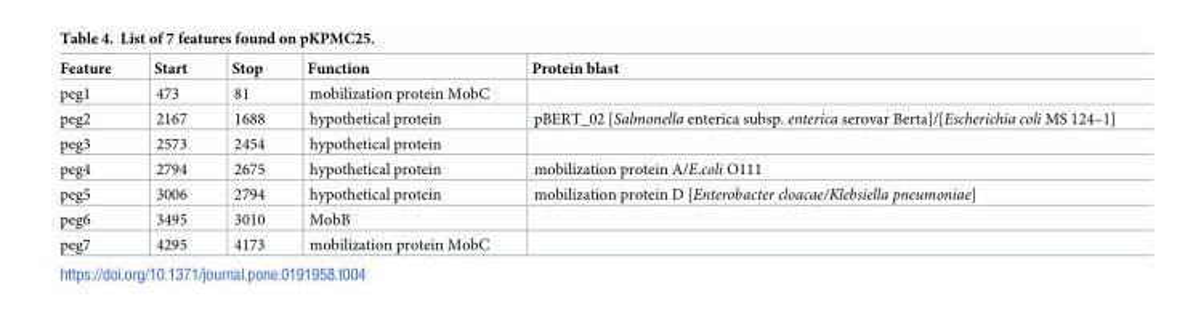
<table><thead><tr><td>Feature</td><td>Start</td><td>Stop</td><td>Function</td><td>Protein blast</td></tr></thead><tbody><tr><td>peg1</td><td>473</td><td>81</td><td>mobilization protein MobC</td><td></td></tr><tr><td>peg2</td><td>2167</td><td>1688</td><td>hypothetical protein</td><td>pBERT_02 [Salmonella enterica subsp. enterica serovar Berta]/[Escherichia coli MS 124–1]</td></tr><tr><td>peg3</td><td>2573</td><td>2454</td><td>hypothetical protein</td><td></td></tr><tr><td>peg4</td><td>2794</td><td>2675</td><td>hypothetical protein</td><td>mobilization protein A/E.coli O111</td></tr><tr><td>peg5</td><td>3006</td><td>2794</td><td>hypothetical protein</td><td>mobilization protein D [Enterobacter cloacae/Klebsiella pneumoniae]</td></tr><tr><td>peg6</td><td>3495</td><td>3010</td><td>MobB</td><td></td></tr><tr><td>peg7</td><td>4295</td><td>4173</td><td>mobilization protein MobC</td><td></td></tr></tbody></table>